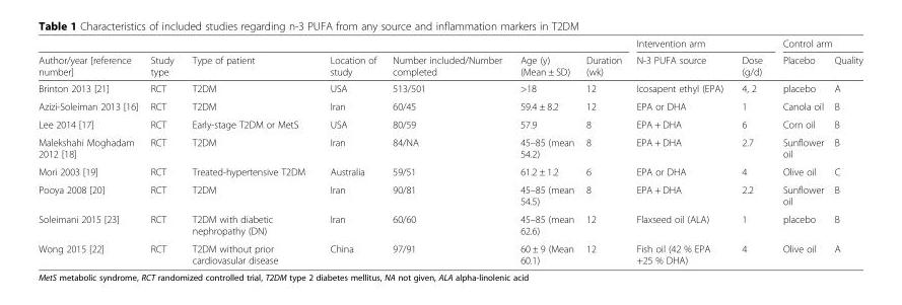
<table><thead><tr><td rowspan="2">Author/year [reference number]</td><td rowspan="2">Study type</td><td rowspan="2">Type of patient</td><td rowspan="2">Location of study</td><td rowspan="2">Number included/Number completed</td><td rowspan="2">Age (y) (Mean ± SD)</td><td rowspan="2">Duration (wk)</td><td colspan="2">Intervention arm</td><td colspan="2">Control arm</td></tr><tr><td>N-3 PUFA source</td><td>Dose (g/d)</td><td>Placebo</td><td>Quality</td></tr></thead><tbody><tr><td>Brinton 2013 [21]</td><td>RCT</td><td>T2DM</td><td>USA</td><td>513/501</td><td>&gt;18</td><td>12</td><td>Icosapent ethyl (EPA)</td><td>4, 2</td><td>placebo</td><td>A</td></tr><tr><td>Azizi-Soleiman 2013 [16]</td><td>RCT</td><td>T2DM</td><td>Iran</td><td>60/45</td><td>59.4 ± 8.2</td><td>12</td><td>EPA or DHA</td><td>1</td><td>Canola oil</td><td>B</td></tr><tr><td>Lee 2014 [17]</td><td>RCT</td><td>Early-stage T2DM or MetS</td><td>USA</td><td>80/59</td><td>57.9</td><td>8</td><td>EPA + DHA</td><td>6</td><td>Corn oil</td><td>B</td></tr><tr><td>Malekshahi Moghadam 2012 [18]</td><td>RCT</td><td>T2DM</td><td>Iran</td><td>84/NA</td><td>45–85 (mean 54.2)</td><td>8</td><td>EPA + DHA</td><td>2.7</td><td>Sunflower oil</td><td>B</td></tr><tr><td>Mori 2003 [19]</td><td>RCT</td><td>Treated-hypertensive T2DM</td><td>Australia</td><td>59/51</td><td>61.2 ± 1.2</td><td>6</td><td>EPA or DHA</td><td>4</td><td>Olive oil</td><td>C</td></tr><tr><td>Pooya 2008 [20]</td><td>RCT</td><td>T2DM</td><td>Iran</td><td>90/81</td><td>45–85 (mean 54.5)</td><td>8</td><td>EPA + DHA</td><td>2.2</td><td>Sunflower oil</td><td>B</td></tr><tr><td>Soleimani 2015 [23]</td><td>RCT</td><td>T2DM with diabetic nephropathy (DN)</td><td>Iran</td><td>60/60</td><td>45–85 (mean 62.6)</td><td>12</td><td>Flaxseed oil (ALA)</td><td>1</td><td>placebo</td><td>B</td></tr><tr><td>Wong 2015 [22]</td><td>RCT</td><td>T2DM without prior cardiovasular disease</td><td>China</td><td>97/91</td><td>60 ± 9 (Mean 60.1)</td><td>12</td><td>Fish oil (42 % EPA +25 % DHA)</td><td>4</td><td>Olive oil</td><td>A</td></tr></tbody></table>